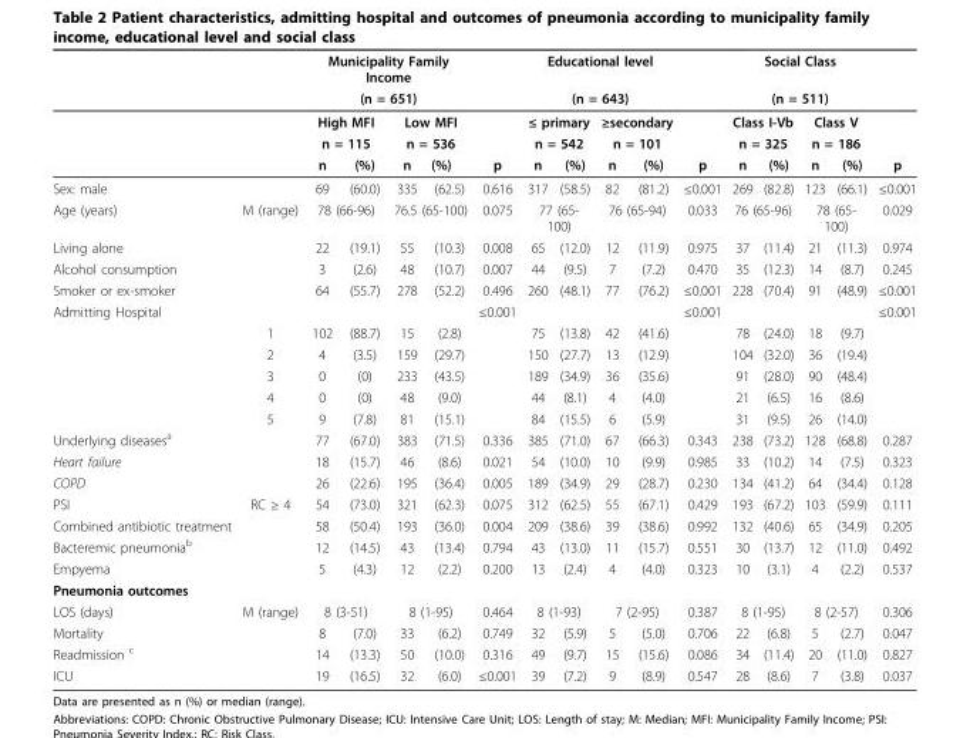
<table><thead><tr><td rowspan="5"></td><td rowspan="5"></td><td rowspan="2" colspan="4">Municipality Family Income (n = 651)</td><td rowspan="5">p</td><td rowspan="2" colspan="4">Educational level (n = 643)</td><td rowspan="5">p</td><td rowspan="2" colspan="4">Social Class (n = 511)</td><td rowspan="5">p</td></tr><tr></tr><tr><td rowspan="2" colspan="2">High MFI n = 115</td><td rowspan="2" colspan="2">Low MFI n = 536</td><td rowspan="2" colspan="2">≤ primary n = 542</td><td rowspan="2" colspan="2">≥secondary n = 101</td><td rowspan="2" colspan="2">Class I-Vb n = 325</td><td rowspan="2" colspan="2">Class V n = 186</td></tr><tr></tr><tr><td>n</td><td>(%)</td><td>n</td><td>(%)</td><td>n</td><td>(%)</td><td>n</td><td>(%)</td><td>n</td><td>(%)</td><td>n</td><td>(%)</td></tr></thead><tbody><tr><td>Sex: male</td><td></td><td>69</td><td>(60.0)</td><td>335</td><td>(62.5)</td><td>0.616</td><td>317</td><td>(58.5)</td><td>82</td><td>(81.2)</td><td>≤0.001</td><td>269</td><td>(82.8)</td><td>123</td><td>(66.1)</td><td>≤0.001</td></tr><tr><td>Age (years)</td><td>M (range)</td><td colspan="2">78 (66-96)</td><td colspan="2">76.5 (65-100)</td><td>0.075</td><td colspan="2">77 (65- 100)</td><td colspan="2">76 (65-94)</td><td>0.033</td><td colspan="2">76 (65-96)</td><td colspan="2">78 (65- 100)</td><td>0.029</td></tr><tr><td>Living alone</td><td></td><td>22</td><td>(19.1)</td><td>55</td><td>(10.3)</td><td>0.008</td><td>65</td><td>(12.0)</td><td>12</td><td>(11.9)</td><td>0.975</td><td>37</td><td>(11.4)</td><td>21</td><td>(11.3)</td><td>0.974</td></tr><tr><td>Alcohol consumption</td><td></td><td>3</td><td>(2.6)</td><td>48</td><td>(10.7)</td><td>0.007</td><td>44</td><td>(9.5)</td><td>7</td><td>(7.2)</td><td>0.470</td><td>35</td><td>(12.3)</td><td>14</td><td>(8.7)</td><td>0.245</td></tr><tr><td>Smoker or ex-smoker</td><td></td><td>64</td><td>(55.7)</td><td>278</td><td>(52.2)</td><td>0.496</td><td>260</td><td>(48.1)</td><td>77</td><td>(76.2)</td><td>≤0.001</td><td>228</td><td>(70.4)</td><td>91</td><td>(48.9)</td><td>≤0.001</td></tr><tr><td rowspan="6">Admitting Hospital</td><td></td><td></td><td></td><td></td><td></td><td>≤0.001</td><td></td><td></td><td></td><td></td><td>≤0.001</td><td></td><td></td><td></td><td></td><td>≤0.001</td></tr><tr><td>1</td><td>102</td><td>(88.7)</td><td>15</td><td>(2.8)</td><td></td><td>75</td><td>(13.8)</td><td>42</td><td>(41.6)</td><td></td><td>78</td><td>(24.0)</td><td>18</td><td>(9.7)</td><td></td></tr><tr><td>2</td><td>4</td><td>(3.5)</td><td>159</td><td>(29.7)</td><td></td><td>150</td><td>(27.7)</td><td>13</td><td>(12.9)</td><td></td><td>104</td><td>(32.0)</td><td>36</td><td>(19.4)</td><td></td></tr><tr><td>3</td><td>0</td><td>(0)</td><td>233</td><td>(43.5)</td><td></td><td>189</td><td>(34.9)</td><td>36</td><td>(35.6)</td><td></td><td>91</td><td>(28.0)</td><td>90</td><td>(48.4)</td><td></td></tr><tr><td>4</td><td>0</td><td>(0)</td><td>48</td><td>(9.0)</td><td></td><td>44</td><td>(8.1)</td><td>4</td><td>(4.0)</td><td></td><td>21</td><td>(6.5)</td><td>16</td><td>(8.6)</td><td></td></tr><tr><td>5</td><td>9</td><td>(7.8)</td><td>81</td><td>(15.1)</td><td></td><td>84</td><td>(15.5)</td><td>6</td><td>(5.9)</td><td></td><td>31</td><td>(9.5)</td><td>26</td><td>(14.0)</td><td></td></tr><tr><td>Underlying diseases<sup>a</sup></td><td></td><td>77</td><td>(67.0)</td><td>383</td><td>(71.5)</td><td>0.336</td><td>385</td><td>(71.0)</td><td>67</td><td>(66.3)</td><td>0.343</td><td>238</td><td>(73.2)</td><td>128</td><td>(68.8)</td><td>0.287</td></tr><tr><td>Heart failure</td><td></td><td>18</td><td>(15.7)</td><td>46</td><td>(8.6)</td><td>0.021</td><td>54</td><td>(10.0)</td><td>10</td><td>(9.9)</td><td>0.985</td><td>33</td><td>(10.2)</td><td>14</td><td>(7.5)</td><td>0.323</td></tr><tr><td>COPD</td><td></td><td>26</td><td>(22.6)</td><td>195</td><td>(36.4)</td><td>0.005</td><td>189</td><td>(34.9)</td><td>29</td><td>(28.7)</td><td>0.230</td><td>134</td><td>(41.2)</td><td>64</td><td>(34.4)</td><td>0.128</td></tr><tr><td>PSI</td><td>RC ≥ 4</td><td>54</td><td>(73.0)</td><td>321</td><td>(62.3)</td><td>0.075</td><td>312</td><td>(62.5)</td><td>55</td><td>(67.1)</td><td>0.429</td><td>193</td><td>(67.2)</td><td>103</td><td>(59.9)</td><td>0.111</td></tr><tr><td>Combined antibiotic treatment</td><td></td><td>58</td><td>(50.4)</td><td>193</td><td>(36.0)</td><td>0.004</td><td>209</td><td>(38.6)</td><td>39</td><td>(38.6)</td><td>0.992</td><td>132</td><td>(40.6)</td><td>65</td><td>(34.9)</td><td>0.205</td></tr><tr><td>Bacteremic pneumonia<sup>b</sup></td><td></td><td>12</td><td>(14.5)</td><td>43</td><td>(13.4)</td><td>0.794</td><td>43</td><td>(13.0)</td><td>11</td><td>(15.7)</td><td>0.551</td><td>30</td><td>(13.7)</td><td>12</td><td>(11.0)</td><td>0.492</td></tr><tr><td>Empyema</td><td></td><td>5</td><td>(4.3)</td><td>12</td><td>(2.2)</td><td>0.200</td><td>13</td><td>(2.4)</td><td>4</td><td>(4.0)</td><td>0.323</td><td>10</td><td>(3.1)</td><td>4</td><td>(2.2)</td><td>0.537</td></tr><tr><td colspan="17">Pneumonia outcomes</td></tr><tr><td>LOS (days)</td><td>M (range)</td><td colspan="2">8 (3-51)</td><td colspan="2">8 (1-95)</td><td>0.464</td><td colspan="2">8 (1-93)</td><td colspan="2">7 (2-95)</td><td>0.387</td><td colspan="2">8 (1-95)</td><td colspan="2">8 (2-57)</td><td>0.306</td></tr><tr><td>Mortality</td><td></td><td>8</td><td>(7.0)</td><td>33</td><td>(6.2)</td><td>0.749</td><td>32</td><td>(5.9)</td><td>5</td><td>(5.0)</td><td>0.706</td><td>22</td><td>(6.8)</td><td>5</td><td>(2.7)</td><td>0.047</td></tr><tr><td>Readmission <sup>c</sup></td><td></td><td>14</td><td>(13.3)</td><td>50</td><td>(10.0)</td><td>0.316</td><td>49</td><td>(9.7)</td><td>15</td><td>(15.6)</td><td>0.086</td><td>34</td><td>(11.4)</td><td>20</td><td>(11.0)</td><td>0.827</td></tr><tr><td>ICU</td><td></td><td>19</td><td>(16.5)</td><td>32</td><td>(6.0)</td><td>≤0.001</td><td>39</td><td>(7.2)</td><td>9</td><td>(8.9)</td><td>0.547</td><td>28</td><td>(8.6)</td><td>7</td><td>(3.8)</td><td>0.037</td></tr></tbody></table>